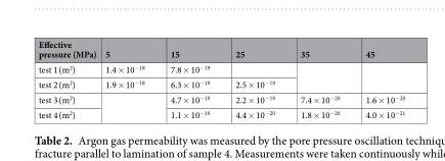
<table><thead><tr><td>Effective pressure (MPa)</td><td>5</td><td>15</td><td>25</td><td>35</td><td>45</td></tr></thead><tbody><tr><td>test 1 (m<sup>2</sup>)</td><td>1.4 × 10<sup>−18</sup></td><td>7.8 × 10<sup>−19</sup></td><td></td><td rowspan="2"></td><td rowspan="2"></td></tr><tr><td>test 2 (m<sup>2</sup>)</td><td>1.9 × 10<sup>−18</sup></td><td>6.3 × 10<sup>−19</sup></td><td>2.5 × 10<sup>−19</sup></td></tr><tr><td>test 3 (m<sup>2</sup>)</td><td rowspan="2"></td><td>4.7 × 10<sup>−19</sup></td><td>2.2 × 10<sup>−19</sup></td><td>7.4 × 10<sup>−20</sup></td><td>1.6 × 10<sup>−20</sup></td></tr><tr><td>test 4 (m<sup>2</sup>)</td><td>1.1 × 10<sup>−19</sup></td><td>4.4 × 10<sup>−20</sup></td><td>1.8 × 10<sup>−20</sup></td><td>4.0 × 10<sup>−21</sup></td></tr></tbody></table>